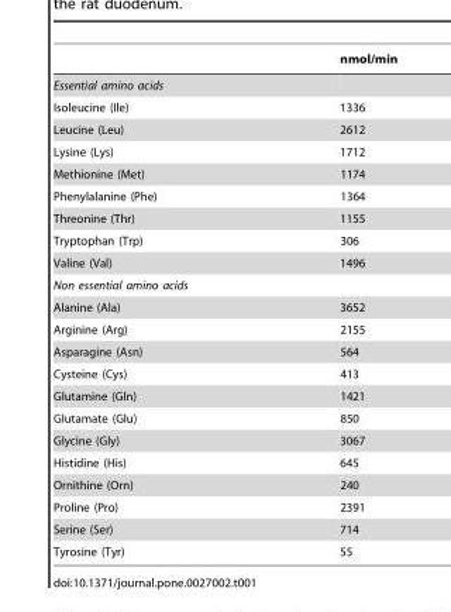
<table><thead><tr><td></td><td>nmol/min</td></tr></thead><tbody><tr><td colspan="2">Essential amino acids</td></tr><tr><td>Isoleucine (Ile)</td><td>1336</td></tr><tr><td>Leucine (Leu)</td><td>2612</td></tr><tr><td>Lysine (Lys)</td><td>1712</td></tr><tr><td>Methionine (Met)</td><td>1174</td></tr><tr><td>Phenylalanine (Phe)</td><td>1364</td></tr><tr><td>Threonine (Thr)</td><td>1155</td></tr><tr><td>Tryptophan (Trp)</td><td>306</td></tr><tr><td>Valine (Val)</td><td>1496</td></tr><tr><td colspan="2">Non essential amino acids</td></tr><tr><td>Alanine (Ala)</td><td>3652</td></tr><tr><td>Arginine (Arg)</td><td>2155</td></tr><tr><td>Asparagine (Asn)</td><td>564</td></tr><tr><td>Cysteine (Cys)</td><td>413</td></tr><tr><td>Glutamine (Gln)</td><td>1421</td></tr><tr><td>Glutamate (Glu)</td><td>850</td></tr><tr><td>Glycine (Gly)</td><td>3067</td></tr><tr><td>Histidine (His)</td><td>645</td></tr><tr><td>Ornithine (Orn)</td><td>240</td></tr><tr><td>Proline (Pro)</td><td>2391</td></tr><tr><td>Serine (Ser)</td><td>714</td></tr><tr><td>Tyrosine (Tyr)</td><td>55</td></tr></tbody></table>